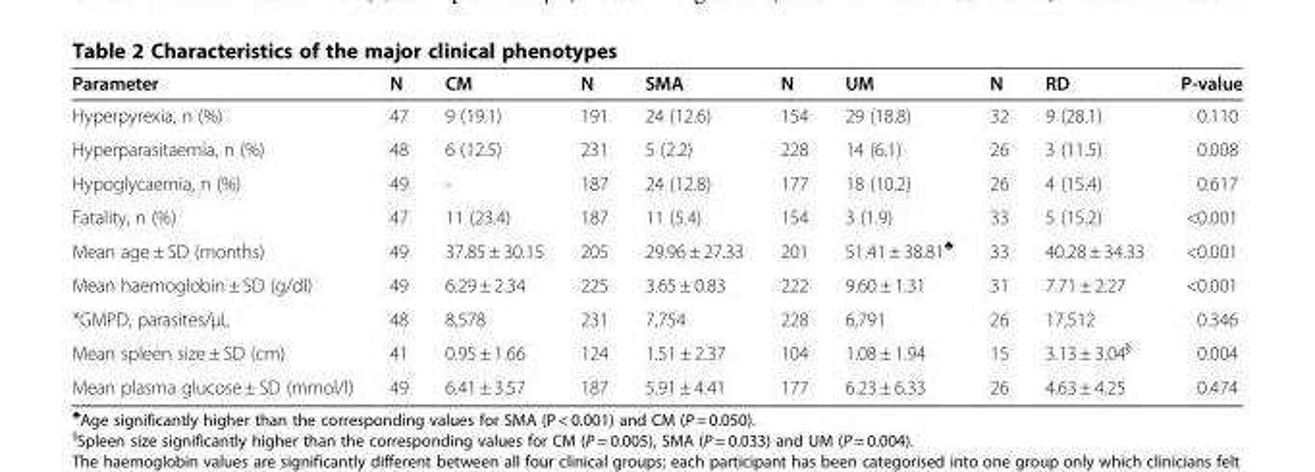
<table><thead><tr><td>Parameter</td><td>N</td><td>CM</td><td>N</td><td>SMA</td><td>N</td><td>UM</td><td>N</td><td>RD</td><td>P-value</td></tr></thead><tbody><tr><td>Hyperpyrexia, n (%)</td><td>47</td><td>9 (19.1)</td><td>191</td><td>24 (12.6)</td><td>154</td><td>29 (18.8)</td><td>32</td><td>9 (28.1)</td><td>0.110</td></tr><tr><td>Hyperparasitaemia, n (%)</td><td>48</td><td>6 (12.5)</td><td>231</td><td>5 (2.2)</td><td>228</td><td>14 (6.1)</td><td>26</td><td>3 (11.5)</td><td>0.008</td></tr><tr><td>Hypoglycaemia, n (%)</td><td>49</td><td>-</td><td>187</td><td>24 (12.8)</td><td>177</td><td>18 (10.2)</td><td>26</td><td>4 (15.4)</td><td>0.617</td></tr><tr><td>Fatality, n (%)</td><td>47</td><td>11 (23.4)</td><td>187</td><td>11 (5.4)</td><td>154</td><td>3 (1.9)</td><td>33</td><td>5 (15.2)</td><td>&lt;0.001</td></tr><tr><td>Mean age ± SD (months)</td><td>49</td><td>37.85 ± 30.15</td><td>205</td><td>29.96 ± 27.33</td><td>201</td><td>51.41 ± 38.81<sup>♣</sup></td><td>33</td><td>40.28 ± 34.33</td><td>&lt;0.001</td></tr><tr><td>Mean haemoglobin ± SD (g/dl)</td><td>49</td><td>6.29 ± 2.34</td><td>225</td><td>3.65 ± 0.83</td><td>222</td><td>9.60 ± 1.31</td><td>31</td><td>7.71 ± 2.27</td><td>&lt;0.001</td></tr><tr><td>*GMPD, parasites/μL</td><td>48</td><td>8,578</td><td>231</td><td>7,754</td><td>228</td><td>6,791</td><td>26</td><td>17,512</td><td>0.346</td></tr><tr><td>Mean spleen size ± SD (cm)</td><td>41</td><td>0.95 ± 1.66</td><td>124</td><td>1.51 ± 2.37</td><td>104</td><td>1.08 ± 1.94</td><td>15</td><td>3.13 ± 3.04<sup>§</sup></td><td>0.004</td></tr><tr><td>Mean plasma glucose ± SD (mmol/l)</td><td>49</td><td>6.41 ± 3.57</td><td>187</td><td>5.91 ± 4.41</td><td>177</td><td>6.23 ± 6.33</td><td>26</td><td>4.63 ± 4.25</td><td>0.474</td></tr></tbody></table>